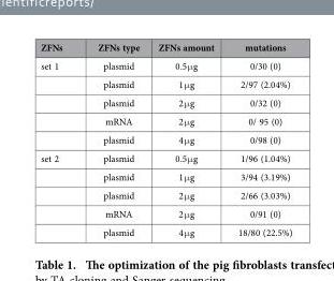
<table><thead><tr><td>ZFNs</td><td>ZFNs type</td><td>ZFNs amount</td><td>mutations</td></tr></thead><tbody><tr><td rowspan="5">set 1</td><td>plasmid</td><td>0.5 μ g</td><td>0/30 (0)</td></tr><tr><td>plasmid</td><td>1 μ g</td><td>2/97 (2.04%)</td></tr><tr><td>plasmid</td><td>2 μ g</td><td>0/32 (0)</td></tr><tr><td>mRNA</td><td>2 μ g</td><td>0/ 95 (0)</td></tr><tr><td>plasmid</td><td>4 μ g</td><td>0/98 (0)</td></tr><tr><td rowspan="5">set 2</td><td>plasmid</td><td>0.5 μ g</td><td>1/96 (1.04%)</td></tr><tr><td>plasmid</td><td>1 μ g</td><td>3/94 (3.19%)</td></tr><tr><td>plasmid</td><td>2 μ g</td><td>2/66 (3.03%)</td></tr><tr><td>mRNA</td><td>2 μ g</td><td>0/91 (0)</td></tr><tr><td>plasmid</td><td>4 μ g</td><td>18/80 (22.5%)</td></tr></tbody></table>